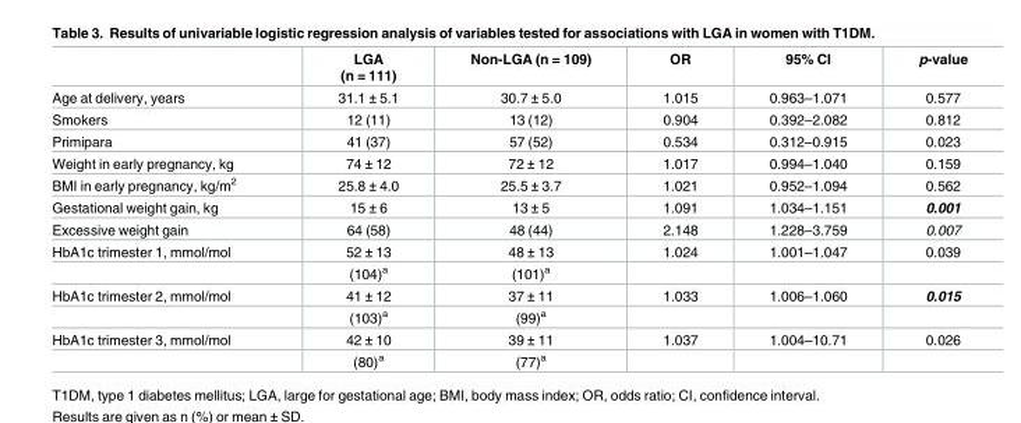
<table><thead><tr><td></td><td>LGA (n = 111)</td><td>Non-LGA (n = 109)</td><td>OR</td><td>95% CI</td><td>p-value</td></tr></thead><tbody><tr><td>Age at delivery, years</td><td>31.1 ± 5.1</td><td>30.7 ± 5.0</td><td>1.015</td><td>0.963–1.071</td><td>0.577</td></tr><tr><td>Smokers</td><td>12 (11)</td><td>13 (12)</td><td>0.904</td><td>0.392–2.082</td><td>0.812</td></tr><tr><td>Primipara</td><td>41 (37)</td><td>57 (52)</td><td>0.534</td><td>0.312–0.915</td><td>0.023</td></tr><tr><td>Weight in early pregnancy, kg</td><td>74 ± 12</td><td>72 ± 12</td><td>1.017</td><td>0.994–1.040</td><td>0.159</td></tr><tr><td>BMI in early pregnancy, kg/m<sup>2</sup></td><td>25.8 ± 4.0</td><td>25.5 ± 3.7</td><td>1.021</td><td>0.952–1.094</td><td>0.562</td></tr><tr><td>Gestational weight gain, kg</td><td>15 ± 6</td><td>13 ± 5</td><td>1.091</td><td>1.034–1.151</td><td>0.001</td></tr><tr><td>Excessive weight gain</td><td>64 (58)</td><td>48 (44)</td><td>2.148</td><td>1.228–3.759</td><td>0.007</td></tr><tr><td rowspan="2">HbA1c trimester 1, mmol/mol</td><td>52 ± 13</td><td>48 ± 13</td><td>1.024</td><td>1.001–1.047</td><td>0.039</td></tr><tr><td>(104)<sup>a</sup></td><td>(101)<sup>a</sup></td><td></td><td></td><td></td></tr><tr><td rowspan="2">HbA1c trimester 2, mmol/mol</td><td>41 ± 12</td><td>37 ± 11</td><td>1.033</td><td>1.006–1.060</td><td>0.015</td></tr><tr><td>(103)<sup>a</sup></td><td>(99)<sup>a</sup></td><td></td><td></td><td></td></tr><tr><td rowspan="2">HbA1c trimester 3, mmol/mol</td><td>42 ± 10</td><td>39 ± 11</td><td>1.037</td><td>1.004–10.71</td><td>0.026</td></tr><tr><td>(80)<sup>a</sup></td><td>(77)<sup>a</sup></td><td></td><td></td><td></td></tr></tbody></table>